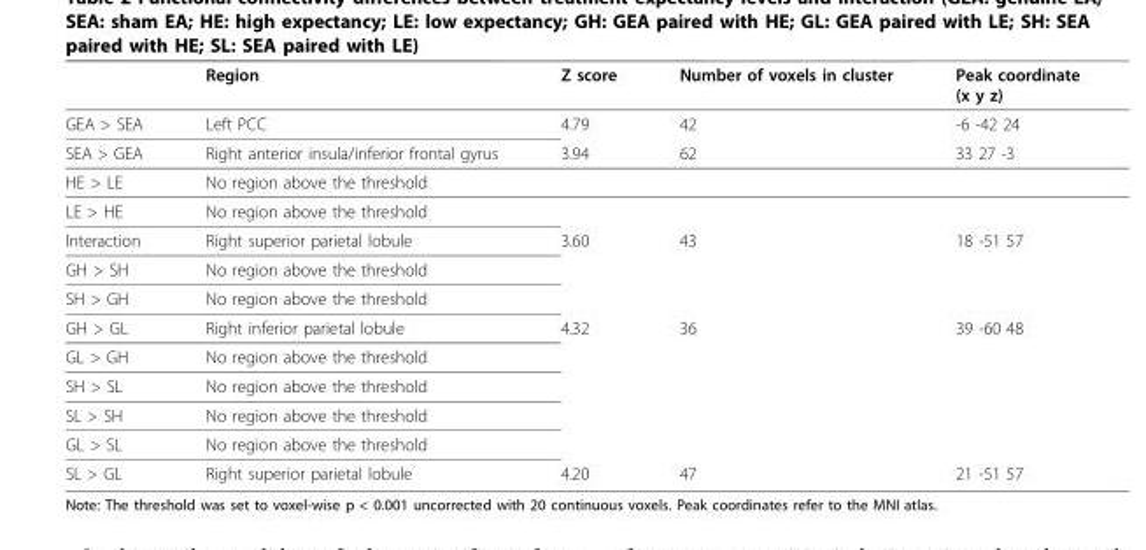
<table><thead><tr><td></td><td>Region</td><td>Z score</td><td>Number of voxels in cluster</td><td>Peak coordinate (x y z)</td></tr></thead><tbody><tr><td>GEA &gt; SEA</td><td>Left PCC</td><td>4.79</td><td>42</td><td>-6 -42 24</td></tr><tr><td>SEA &gt; GEA</td><td>Right anterior insula/inferior frontal gyrus</td><td>3.94</td><td>62</td><td>33 27 -3</td></tr><tr><td>HE &gt; LE</td><td>No region above the threshold</td><td></td><td></td><td></td></tr><tr><td>LE &gt; HE</td><td>No region above the threshold</td><td></td><td></td><td></td></tr><tr><td>Interaction</td><td>Right superior parietal lobule</td><td>3.60</td><td>43</td><td>18 -51 57</td></tr><tr><td>GH &gt; SH</td><td>No region above the threshold</td><td></td><td></td><td></td></tr><tr><td>SH &gt; GH</td><td>No region above the threshold</td><td></td><td></td><td></td></tr><tr><td>GH &gt; GL</td><td>Right inferior parietal lobule</td><td>4.32</td><td>36</td><td>39 -60 48</td></tr><tr><td>GL &gt; GH</td><td>No region above the threshold</td><td></td><td></td><td></td></tr><tr><td>SH &gt; SL</td><td>No region above the threshold</td><td></td><td></td><td></td></tr><tr><td>SL &gt; SH</td><td>No region above the threshold</td><td></td><td></td><td></td></tr><tr><td>GL &gt; SL</td><td>No region above the threshold</td><td></td><td></td><td></td></tr><tr><td>SL &gt; GL</td><td>Right superior parietal lobule</td><td>4.20</td><td>47</td><td>21 -51 57</td></tr></tbody></table>